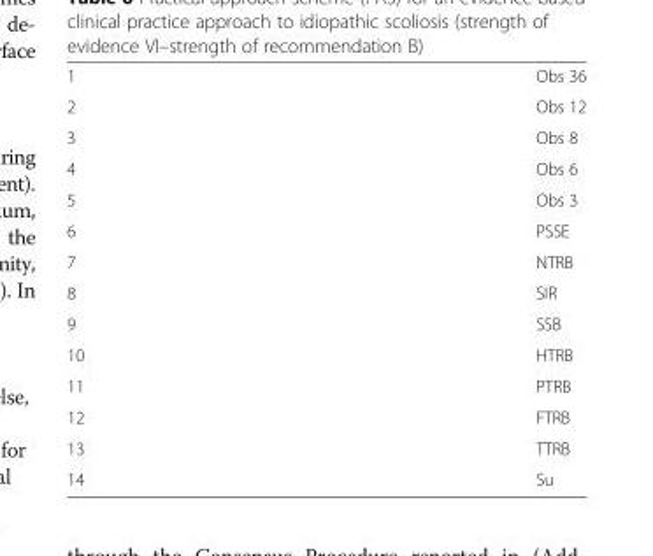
<table><tbody><tr><td>1</td><td>Obs 36</td></tr><tr><td>2</td><td>Obs 12</td></tr><tr><td>3</td><td>Obs 8</td></tr><tr><td>4</td><td>Obs 6</td></tr><tr><td>5</td><td>Obs 3</td></tr><tr><td>6</td><td>PSSE</td></tr><tr><td>7</td><td>NTRB</td></tr><tr><td>8</td><td>SIR</td></tr><tr><td>9</td><td>SSB</td></tr><tr><td>10</td><td>HTRB</td></tr><tr><td>11</td><td>PTRB</td></tr><tr><td>12</td><td>FTRB</td></tr><tr><td>13</td><td>TTRB</td></tr><tr><td>14</td><td>Su</td></tr></tbody></table>